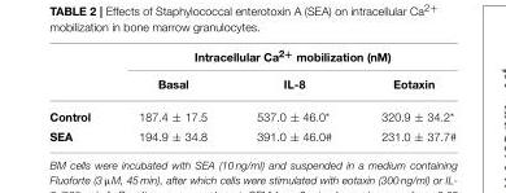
<table><thead><tr><td rowspan="2"></td><td colspan="3">Intracellular Ca<sup>2+</sup> mobilization (nM)</td></tr><tr><td>Basal</td><td>IL-8</td><td>Eotaxin</td></tr></thead><tbody><tr><td>Control</td><td>187.4 ± 17.5</td><td>537.0 ± 46.0*</td><td>320.9 ± 34.2*</td></tr><tr><td>SEA</td><td>194.9 ± 34.8</td><td>391.0 ± 46.0#</td><td>231.0 ± 37.7#</td></tr></tbody></table>